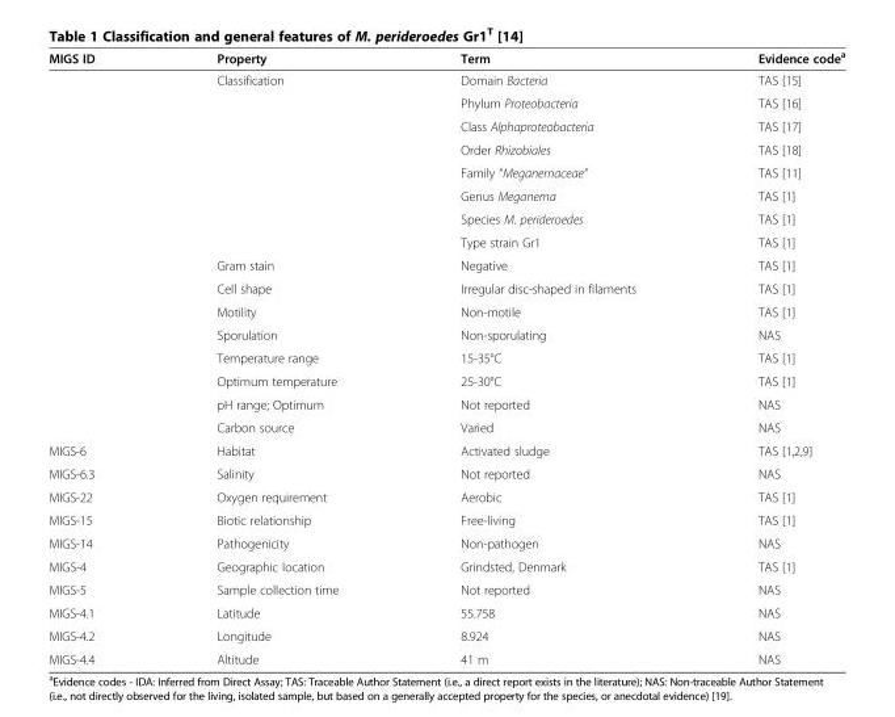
<table><thead><tr><td>MIGS ID</td><td>Property</td><td>Term</td><td>Evidence code<sup>a</sup></td></tr></thead><tbody><tr><td></td><td>Classification</td><td>Domain Bacteria</td><td>TAS [15]</td></tr><tr><td></td><td></td><td>Phylum Proteobacteria</td><td>TAS [16]</td></tr><tr><td></td><td></td><td>Class Alphaproteobacteria</td><td>TAS [17]</td></tr><tr><td></td><td></td><td>Order Rhizobiales</td><td>TAS [18]</td></tr><tr><td></td><td></td><td>Family “Meganemaceae”</td><td>TAS [11]</td></tr><tr><td></td><td></td><td>Genus Meganema</td><td>TAS [1]</td></tr><tr><td></td><td></td><td>Species M. perideroedes</td><td>TAS [1]</td></tr><tr><td></td><td></td><td>Type strain Gr1</td><td>TAS [1]</td></tr><tr><td></td><td>Gram stain</td><td>Negative</td><td>TAS [1]</td></tr><tr><td></td><td>Cell shape</td><td>Irregular disc-shaped in filaments</td><td>TAS [1]</td></tr><tr><td></td><td>Motility</td><td>Non-motile</td><td>TAS [1]</td></tr><tr><td></td><td>Sporulation</td><td>Non-sporulating</td><td>NAS</td></tr><tr><td></td><td>Temperature range</td><td>15-35°C</td><td>TAS [1]</td></tr><tr><td></td><td>Optimum temperature</td><td>25-30°C</td><td>TAS [1]</td></tr><tr><td></td><td>pH range; Optimum</td><td>Not reported</td><td>NAS</td></tr><tr><td></td><td>Carbon source</td><td>Varied</td><td>NAS</td></tr><tr><td>MIGS-6</td><td>Habitat</td><td>Activated sludge</td><td>TAS [1,2,9]</td></tr><tr><td>MIGS-6.3</td><td>Salinity</td><td>Not reported</td><td>NAS</td></tr><tr><td>MIGS-22</td><td>Oxygen requirement</td><td>Aerobic</td><td>TAS [1]</td></tr><tr><td>MIGS-15</td><td>Biotic relationship</td><td>Free-living</td><td>TAS [1]</td></tr><tr><td>MIGS-14</td><td>Pathogenicity</td><td>Non-pathogen</td><td>NAS</td></tr><tr><td>MIGS-4</td><td>Geographic location</td><td>Grindsted, Denmark</td><td>TAS [1]</td></tr><tr><td>MIGS-5</td><td>Sample collection time</td><td>Not reported</td><td>NAS</td></tr><tr><td>MIGS-4.1</td><td>Latitude</td><td>55.758</td><td>NAS</td></tr><tr><td>MIGS-4.2</td><td>Longitude</td><td>8.924</td><td>NAS</td></tr><tr><td>MIGS-4.4</td><td>Altitude</td><td>41 m</td><td>NAS</td></tr></tbody></table>